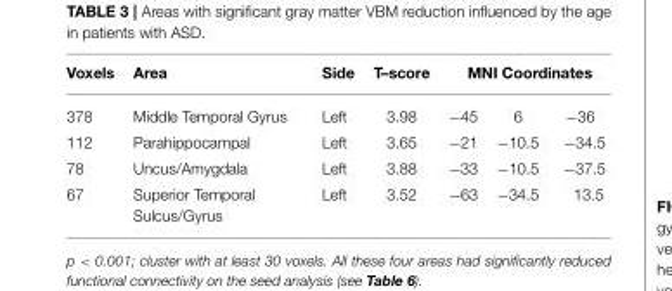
<table><thead><tr><td rowspan="2">Voxels 378</td><td rowspan="2">Area Middle Temporal Gyrus</td><td rowspan="2">Side Left</td><td rowspan="2">T–score 3.98</td><td colspan="3">MNI Coordinates</td></tr><tr><td>−45</td><td>6</td><td>−36</td></tr></thead><tbody><tr><td>112</td><td>Parahippocampal</td><td>Left</td><td>3.65</td><td>−21</td><td>−10.5</td><td>−34.5</td></tr><tr><td>78</td><td>Uncus/Amygdala</td><td>Left</td><td>3.88</td><td>−33</td><td>−10.5</td><td>−37.5</td></tr><tr><td>67</td><td>Superior Temporal Sulcus/Gyrus</td><td>Left</td><td>3.52</td><td>−63</td><td>−34.5</td><td>13.5</td></tr></tbody></table>